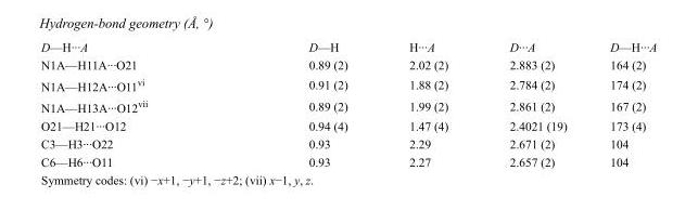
<table><tbody><tr><td>D—H···A</td><td>D—H</td><td>H···A</td><td>D···A</td><td>D—H···A</td></tr><tr><td>N1A—H11A···O21</td><td>0.89 (2)</td><td>2.02 (2)</td><td>2.883 (2)</td><td>164 (2)</td></tr><tr><td>N1A—H12A···O11<sup>vi</sup></td><td>0.91 (2)</td><td>1.88 (2)</td><td>2.784 (2)</td><td>174 (2)</td></tr><tr><td>N1A—H13A···O12<sup>vii</sup></td><td>0.89 (2)</td><td>1.99 (2)</td><td>2.861 (2)</td><td>167 (2)</td></tr><tr><td>O21—H21···O12</td><td>0.94 (4)</td><td>1.47 (4)</td><td>2.4021 (19)</td><td>173 (4)</td></tr><tr><td>C3—H3···O22</td><td>0.93</td><td>2.29</td><td>2.671 (2)</td><td>104</td></tr><tr><td>C6—H6···O11</td><td>0.93</td><td>2.27</td><td>2.657 (2)</td><td>104</td></tr></tbody></table>